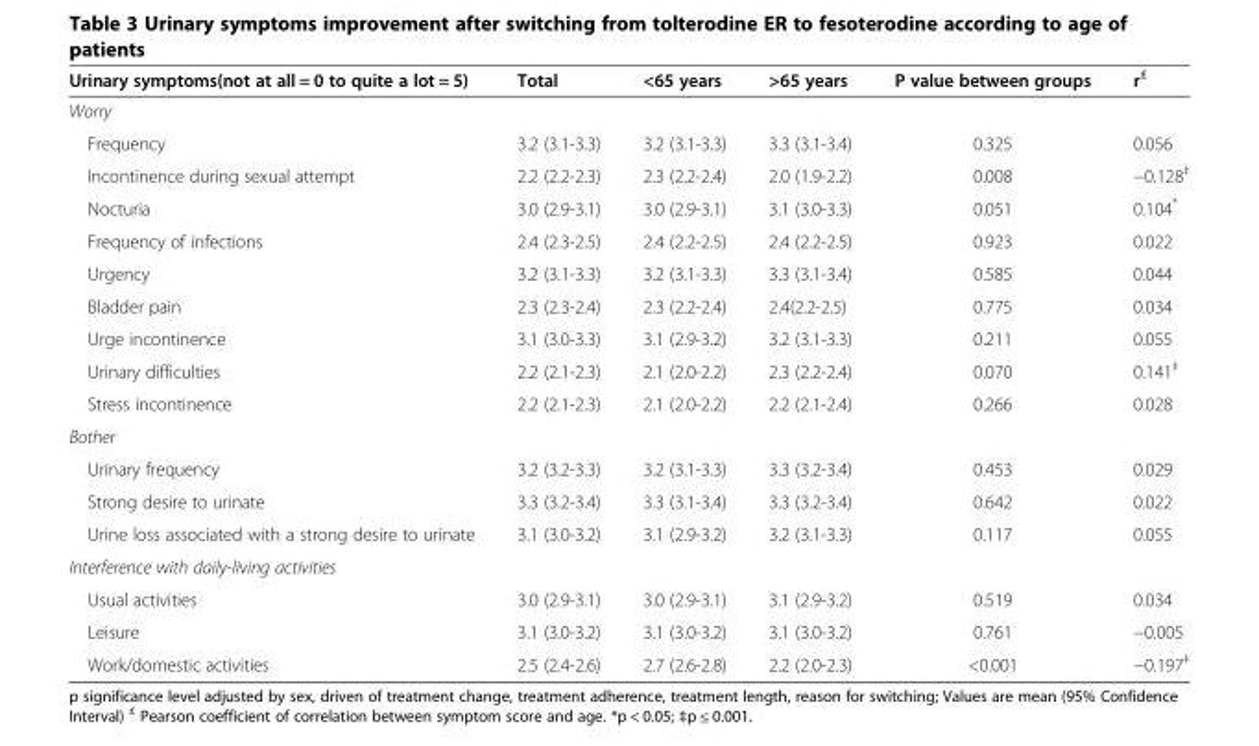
<table><thead><tr><td>Urinary symptoms(not at all = 0 to quite a lot = 5)</td><td>Total</td><td>&lt;65 years</td><td>&gt;65 years</td><td>P value between groups</td><td>r<sup>₤</sup></td></tr></thead><tbody><tr><td colspan="6">Worry</td></tr><tr><td>Frequency</td><td>3.2 (3.1-3.3)</td><td>3.2 (3.1-3.3)</td><td>3.3 (3.1-3.4)</td><td>0.325</td><td>0.056</td></tr><tr><td>Incontinence during sexual attempt</td><td>2.2 (2.2-2.3)</td><td>2.3 (2.2-2.4)</td><td>2.0 (1.9-2.2)</td><td>0.008</td><td>−0.128<sup>‡</sup></td></tr><tr><td>Nocturia</td><td>3.0 (2.9-3.1)</td><td>3.0 (2.9-3.1)</td><td>3.1 (3.0-3.3)</td><td>0.051</td><td>0.104*</td></tr><tr><td>Frequency of infections</td><td>2.4 (2.3-2.5)</td><td>2.4 (2.2-2.5)</td><td>2.4 (2.2-2.5)</td><td>0.923</td><td>0.022</td></tr><tr><td>Urgency</td><td>3.2 (3.1-3.3)</td><td>3.2 (3.1-3.3)</td><td>3.3 (3.1-3.4)</td><td>0.585</td><td>0.044</td></tr><tr><td>Bladder pain</td><td>2.3 (2.3-2.4)</td><td>2.3 (2.2-2.4)</td><td>2.4(2.2-2.5)</td><td>0.775</td><td>0.034</td></tr><tr><td>Urge incontinence</td><td>3.1 (3.0-3.3)</td><td>3.1 (2.9-3.2)</td><td>3.2 (3.1-3.3)</td><td>0.211</td><td>0.055</td></tr><tr><td>Urinary difficulties</td><td>2.2 (2.1-2.3)</td><td>2.1 (2.0-2.2)</td><td>2.3 (2.2-2.4)</td><td>0.070</td><td>0.141<sup>‡</sup></td></tr><tr><td>Stress incontinence</td><td>2.2 (2.1-2.3)</td><td>2.1 (2.0-2.2)</td><td>2.2 (2.1-2.4)</td><td>0.266</td><td>0.028</td></tr><tr><td colspan="6">Bother</td></tr><tr><td>Urinary frequency</td><td>3.2 (3.2-3.3)</td><td>3.2 (3.1-3.3)</td><td>3.3 (3.2-3.4)</td><td>0.453</td><td>0.029</td></tr><tr><td>Strong desire to urinate</td><td>3.3 (3.2-3.4)</td><td>3.3 (3.1-3.4)</td><td>3.3 (3.2-3.4)</td><td>0.642</td><td>0.022</td></tr><tr><td>Urine loss associated with a strong desire to urinate</td><td>3.1 (3.0-3.2)</td><td>3.1 (2.9-3.2)</td><td>3.2 (3.1-3.3)</td><td>0.117</td><td>0.055</td></tr><tr><td colspan="6">Interference with daily-living activities</td></tr><tr><td>Usual activities</td><td>3.0 (2.9-3.1)</td><td>3.0 (2.9-3.1)</td><td>3.1 (2.9-3.2)</td><td>0.519</td><td>0.034</td></tr><tr><td>Leisure</td><td>3.1 (3.0-3.2)</td><td>3.1 (3.0-3.2)</td><td>3.1 (3.0-3.2)</td><td>0.761</td><td>−0.005</td></tr><tr><td>Work/domestic activities</td><td>2.5 (2.4-2.6)</td><td>2.7 (2.6-2.8)</td><td>2.2 (2.0-2.3)</td><td>&lt;0.001</td><td>−0.197<sup>‡</sup></td></tr></tbody></table>